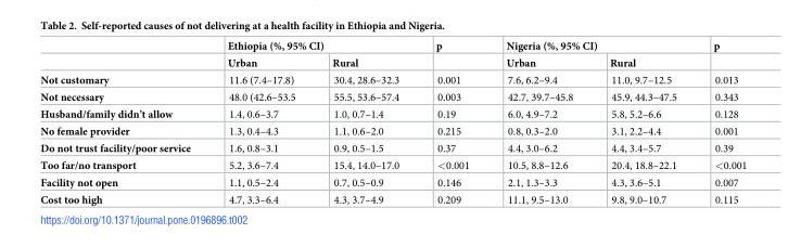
<table><thead><tr><td rowspan="2"></td><td colspan="2">Ethiopia (%, 95% CI)</td><td rowspan="2">p</td><td colspan="2">Nigeria (%, 95% CI)</td><td rowspan="2">p</td></tr><tr><td>Urban</td><td>Rural</td><td>Urban</td><td>Rural</td></tr></thead><tbody><tr><td>Not customary</td><td>11.6 (7.4–17.8)</td><td>30.4, 28.6–32.3</td><td>0.001</td><td>7.6, 6.2–9.4</td><td>11.0, 9.7–12.5</td><td>0.013</td></tr><tr><td>Not necessary</td><td>48.0 (42.6–53.5</td><td>55.5, 53.6–57.4</td><td>0.003</td><td>42.7, 39.7–45.8</td><td>45.9, 44.3–47.5</td><td>0.343</td></tr><tr><td>Husband/family didn’t allow</td><td>1.4, 0.6–3.7</td><td>1.0, 0.7–1.4</td><td>0.19</td><td>6.0, 4.9–7.2</td><td>5.8, 5.2–6.6</td><td>0.128</td></tr><tr><td>No female provider</td><td>1.3, 0.4–4.3</td><td>1.1, 0.6–2.0</td><td>0.215</td><td>0.8, 0.3–2.0</td><td>3.1, 2.2–4.4</td><td>0.001</td></tr><tr><td>Do not trust facility/poor service</td><td>1.6, 0.8–3.1</td><td>0.9, 0.5–1.5</td><td>0.37</td><td>4.4, 3.0–6.2</td><td>4.4, 3.4–5.7</td><td>0.39</td></tr><tr><td>Too far/no transport</td><td>5.2, 3.6–7.4</td><td>15.4, 14.0–17.0</td><td>&lt;0.001</td><td>10.5, 8.8–12.6</td><td>20.4, 18.8–22.1</td><td>&lt;0.001</td></tr><tr><td>Facility not open</td><td>1.1, 0.5–2.4</td><td>0.7, 0.5–0.9</td><td>0.146</td><td>2.1, 1.3–3.3</td><td>4.3, 3.6–5.1</td><td>0.007</td></tr><tr><td>Cost too high</td><td>4.7, 3.3–6.4</td><td>4.3, 3.7–4.9</td><td>0.209</td><td>11.1, 9.5–13.0</td><td>9.8, 9.0–10.7</td><td>0.115</td></tr></tbody></table>